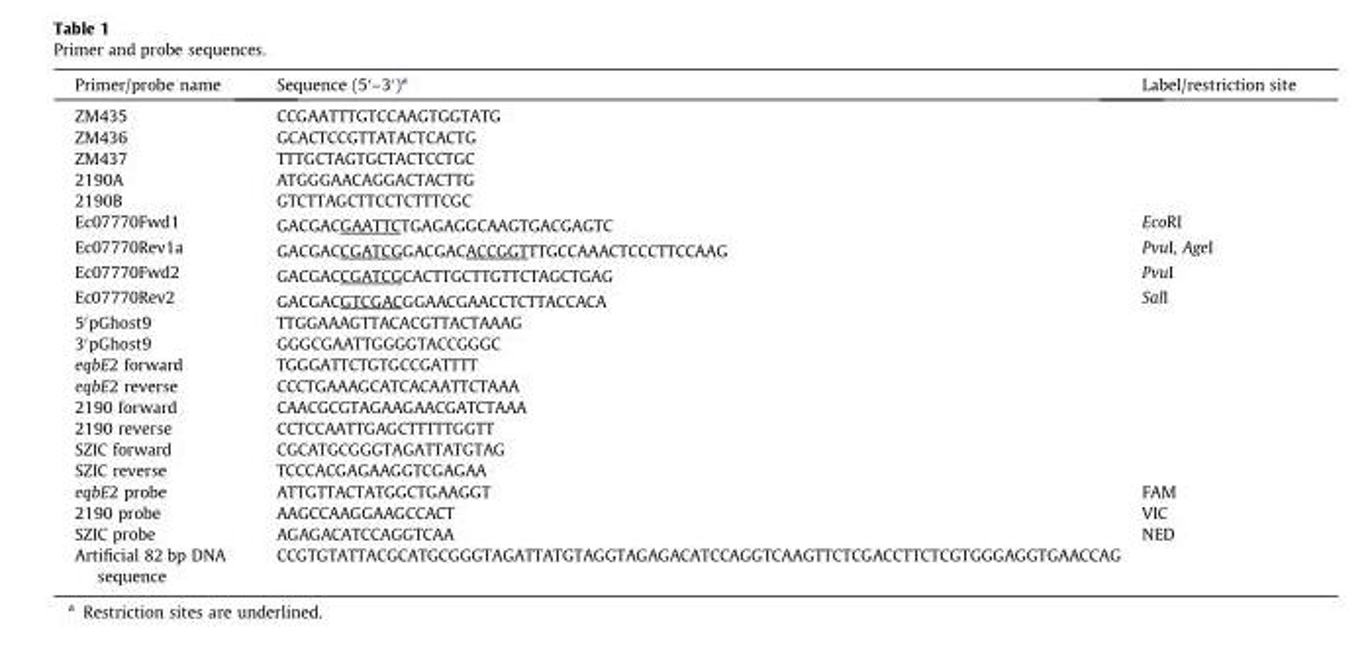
<table><thead><tr><td>Primer/probe name</td><td>Sequence (5′–3′)<sup>a</sup></td><td>Label/restriction site</td></tr></thead><tbody><tr><td>ZM435</td><td>CCGAATTTGTCCAAGTGGTATG</td><td></td></tr><tr><td>ZM436</td><td>GCACTCCGTTATACTCACTG</td><td></td></tr><tr><td>ZM437</td><td>TTTGCTAGTGCTACTCCTGC</td><td></td></tr><tr><td>2190A</td><td>ATGGGAACAGGACTACTTG</td><td></td></tr><tr><td>2190B</td><td>GTCTTAGCTTCCTCTTTCGC</td><td></td></tr><tr><td>Ec07770Fwd1</td><td>GACGACGAATTCTGAGAGGCAAGTGACGAGTC</td><td>EcoRI</td></tr><tr><td>Ec07770Rev1a</td><td>GACGACCGATCGGACGACACCGGTTTGCCAAACTCCCTTCCAAG</td><td>PvuI, AgeI</td></tr><tr><td>Ec07770Fwd2</td><td>GACGACCGATCGCACTTGCTTGTTCTAGCTGAG</td><td>PvuI</td></tr><tr><td>Ec07770Rev2</td><td>GACGACGTCGACGGAACGAACCTCTTACCACA</td><td>SalI</td></tr><tr><td>5′pGhost9</td><td>TTGGAAAGTTACACGTTACTAAAG</td><td></td></tr><tr><td>3′pGhost9</td><td>GGGCGAATTGGGGTACCGGGC</td><td></td></tr><tr><td>eqbE2 forward</td><td>TGGGATTCTGTGCCGATTTT</td><td></td></tr><tr><td>eqbE2 reverse</td><td>CCCTGAAAGCATCACAATTCTAAA</td><td></td></tr><tr><td>2190 forward</td><td>CAACGCGTAGAAGAACGATCTAAA</td><td></td></tr><tr><td>2190 reverse</td><td>CCTCCAATTGAGCTTTTTGGTT</td><td></td></tr><tr><td>SZIC forward</td><td>CGCATGCGGGTAGATTATGTAG</td><td></td></tr><tr><td>SZIC reverse</td><td>TCCCACGAGAAGGTCGAGAA</td><td></td></tr><tr><td>eqbE2 probe</td><td>ATTGTTACTATGGCTGAAGGT</td><td>FAM</td></tr><tr><td>2190 probe</td><td>AAGCCAAGGAAGCCACT</td><td>VIC</td></tr><tr><td>SZIC probe</td><td>AGAGACATCCAGGTCAA</td><td>NED</td></tr><tr><td>Artificial 82 bp DNA sequence</td><td>CCGTGTATTACGCATGCGGGTAGATTATGTAGGTAGAGACATCCAGGTCAAGTTCTCGACCTTCTCGTGGGAGGTGAACCAG</td><td></td></tr></tbody></table>